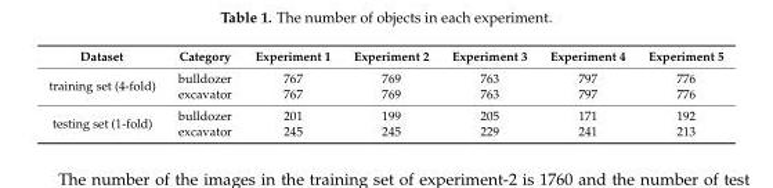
<table><thead><tr><td>Dataset</td><td>Category</td><td>Experiment 1</td><td>Experiment 2</td><td>Experiment 3</td><td>Experiment 4</td><td>Experiment 5</td></tr></thead><tbody><tr><td rowspan="2">training set (4-fold)</td><td>bulldozer</td><td>767</td><td>769</td><td>763</td><td>797</td><td>776</td></tr><tr><td>excavator</td><td>767</td><td>769</td><td>763</td><td>797</td><td>776</td></tr><tr><td rowspan="2">testing set (1-fold)</td><td>bulldozer</td><td>201</td><td>199</td><td>205</td><td>171</td><td>192</td></tr><tr><td>excavator</td><td>245</td><td>245</td><td>229</td><td>241</td><td>213</td></tr></tbody></table>